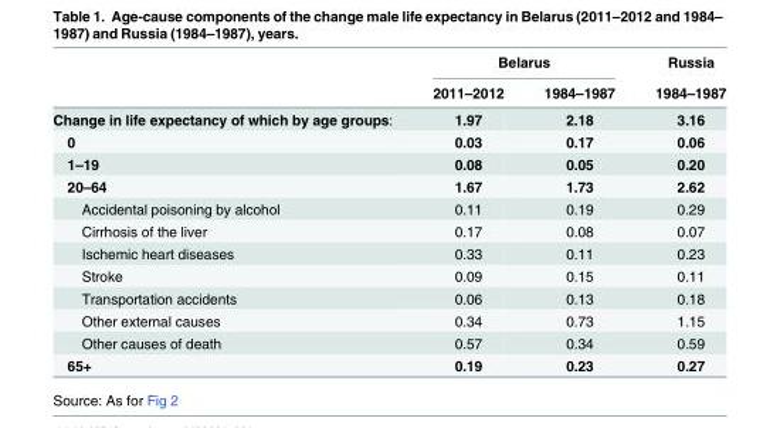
<table><thead><tr><td rowspan="2"></td><td colspan="2">Belarus</td><td rowspan="2">Russia 1984–1987</td></tr><tr><td>2011–2012</td><td>1984–1987</td></tr></thead><tbody><tr><td>Change in life expectancy of which by age groups:</td><td>1.97</td><td>2.18</td><td>3.16</td></tr><tr><td>0</td><td>0.03</td><td>0.17</td><td>0.06</td></tr><tr><td>1–19</td><td>0.08</td><td>0.05</td><td>0.20</td></tr><tr><td>20–64</td><td>1.67</td><td>1.73</td><td>2.62</td></tr><tr><td>Accidental poisoning by alcohol</td><td>0.11</td><td>0.19</td><td>0.29</td></tr><tr><td>Cirrhosis of the liver</td><td>0.17</td><td>0.08</td><td>0.07</td></tr><tr><td>Ischemic heart diseases</td><td>0.33</td><td>0.11</td><td>0.23</td></tr><tr><td>Stroke</td><td>0.09</td><td>0.15</td><td>0.11</td></tr><tr><td>Transportation accidents</td><td>0.06</td><td>0.13</td><td>0.18</td></tr><tr><td>Other external causes</td><td>0.34</td><td>0.73</td><td>1.15</td></tr><tr><td>Other causes of death</td><td>0.57</td><td>0.34</td><td>0.59</td></tr><tr><td>65+</td><td>0.19</td><td>0.23</td><td>0.27</td></tr></tbody></table>